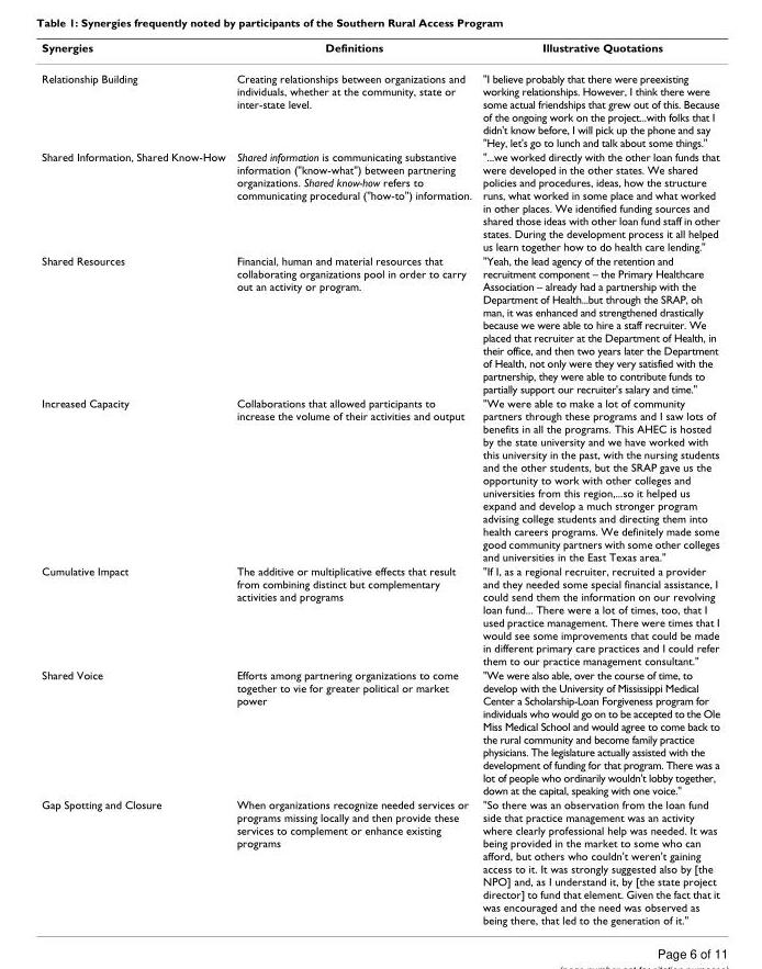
<table><thead><tr><td>Synergies</td><td>Definitions</td><td>Illustrative Quotations</td></tr></thead><tbody><tr><td>Relationship Building</td><td>Creating relationships between organizations and individuals, whether at the community, state or inter-state level.</td><td>&quot;I believe probably that there were preexisting working relationships. However, I think there were some actual friendships that grew out of this. Because of the ongoing work on the project...with folks that I didn&#x27;t know before, I will pick up the phone and say &quot;Hey, let&#x27;s go to lunch and talk about some things.&quot;</td></tr><tr><td>Shared Information, Shared Know-How</td><td>Shared information is communicating substantive information (&quot;know-what&quot;) between partnering organizations. Shared know-how refers to communicating procedural (&quot;how-to&quot;) information.</td><td>&quot;...we worked directly with the other loan funds that were developed in the other states. We shared policies and procedures, ideas, how the structure runs, what worked in some place and what worked in other places. We identified funding sources and shared those ideas with other loan fund staff in other states. During the development process it all helped us learn together how to do health care lending.&quot;</td></tr><tr><td>Shared Resources</td><td>Financial, human and material resources that collaborating organizations pool in order to carry out an activity or program.</td><td>&quot;Yeah, the lead agency of the retention and recruitment component – the Primary Healthcare Association – already had a partnership with the Department of Health...but through the SRAP, oh man, it was enhanced and strengthened drastically because we were able to hire a staff recruiter. We placed that recruiter at the Department of Health, in their office, and then two years later the Department of Health, not only were they very satisfied with the partnership, they were able to contribute funds to partially support our recruiter&#x27;s salary and time.&quot;</td></tr><tr><td>Increased Capacity</td><td>Collaborations that allowed participants to increase the volume of their activities and output</td><td>&quot;We were able to make a lot of community partners through these programs and I saw lots of benefits in all the programs. This AHEC is hosted by the state university and we have worked with this university in the past, with the nursing students and the other students, but the SRAP gave us the opportunity to work with other colleges and universities from this region,...so it helped us expand and develop a much stronger program advising college students and directing them into health careers programs. We definitely made some good community partners with some other colleges and universities in the East Texas area.&quot;</td></tr><tr><td>Cumulative Impact</td><td>The additive or multiplicative effects that result from combining distinct but complementary activities and programs</td><td>&quot;If I, as a regional recruiter, recruited a provider and they needed some special financial assistance, I could send them the information on our revolving loan fund... There were a lot of times, too, that I used practice management. There were times that I would see some improvements that could be made in different primary care practices and I could refer them to our practice management consultant.&quot;</td></tr><tr><td>Shared Voice</td><td>Efforts among partnering organizations to come together to vie for greater political or market power</td><td>&quot;We were also able, over the course of time, to develop with the University of Mississippi Medical Center a Scholarship-Loan Forgiveness program for individuals who would go on to be accepted to the Ole Miss Medical School and would agree to come back to the rural community and become family practice physicians. The legislature actually assisted with the development of funding for that program. There was a lot of people who ordinarily wouldn&#x27;t lobby together, down at the capital, speaking with one voice.&quot;</td></tr><tr><td>Gap Spotting and Closure</td><td>When organizations recognize needed services or programs missing locally and then provide these services to complement or enhance existing programs</td><td>&quot;So there was an observation from the loan fund side that practice management was an activity where clearly professional help was needed. It was being provided in the market to some who can afford, but others who couldn&#x27;t weren&#x27;t gaining access to it. It was strongly suggested also by [the NPO] and, as I understand it, by [the state project director] to fund that element. Given the fact that it was encouraged and the need was observed as being there, that led to the generation of it.&quot;</td></tr></tbody></table>